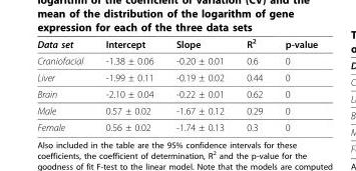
<table><thead><tr><td>Data set</td><td>Intercept</td><td>Slope</td><td>R<sup>2</sup></td><td>p-value</td></tr></thead><tbody><tr><td>Craniofacial</td><td>-1.38 ± 0.06</td><td>-0.20 ± 0.01</td><td>0.6</td><td>0</td></tr><tr><td>Liver</td><td>-1.99 ± 0.11</td><td>-0.19 ± 0.02</td><td>0.44</td><td>0</td></tr><tr><td>Brain</td><td>-2.10 ± 0.04</td><td>-0.22 ± 0.01</td><td>0.62</td><td>0</td></tr><tr><td>Male</td><td>0.57 ± 0.02</td><td>-1.67 ± 0.12</td><td>0.29</td><td>0</td></tr><tr><td>Female</td><td>0.56 ± 0.02</td><td>-1.74 ± 0.13</td><td>0.3</td><td>0</td></tr></tbody></table>